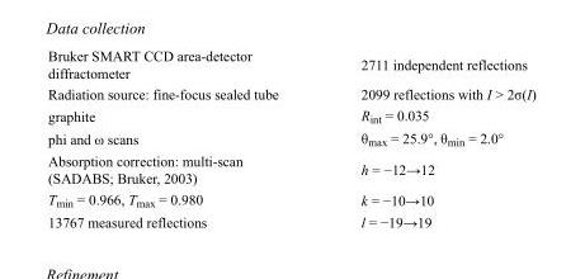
<table><tbody><tr><td>Bruker SMART CCD area-detector diffractometer</td><td>2711 independent reflections</td></tr><tr><td>Radiation source: fine-focus sealed tube</td><td>2099 reflections with I &gt; 2σ(I)</td></tr><tr><td>graphite</td><td>R<sub>int</sub> = 0.035</td></tr><tr><td>phi and ω scans</td><td>θ<sub>max</sub> = 25.9°, θ<sub>min</sub> = 2.0°</td></tr><tr><td>Absorption correction: multi-scan (SADABS; Bruker, 2003)</td><td>h = −12→12</td></tr><tr><td>T<sub>min</sub> = 0.966, T<sub>max</sub> = 0.980</td><td>k = −10→10</td></tr><tr><td>13767 measured reflections</td><td>l = −19→19</td></tr></tbody></table>